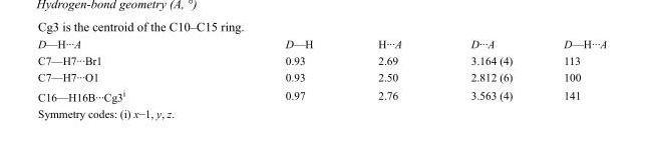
<table><tbody><tr><td>D—H···A</td><td>D—H</td><td>H···A</td><td>D···A</td><td>D—H···A</td></tr><tr><td>C7—H7···Br1</td><td>0.93</td><td>2.69</td><td>3.164 (4)</td><td>113</td></tr><tr><td>C7—H7···O1</td><td>0.93</td><td>2.50</td><td>2.812 (6)</td><td>100</td></tr><tr><td>C16—H16B···Cg3<sup>i</sup></td><td>0.97</td><td>2.76</td><td>3.563 (4)</td><td>141</td></tr></tbody></table>